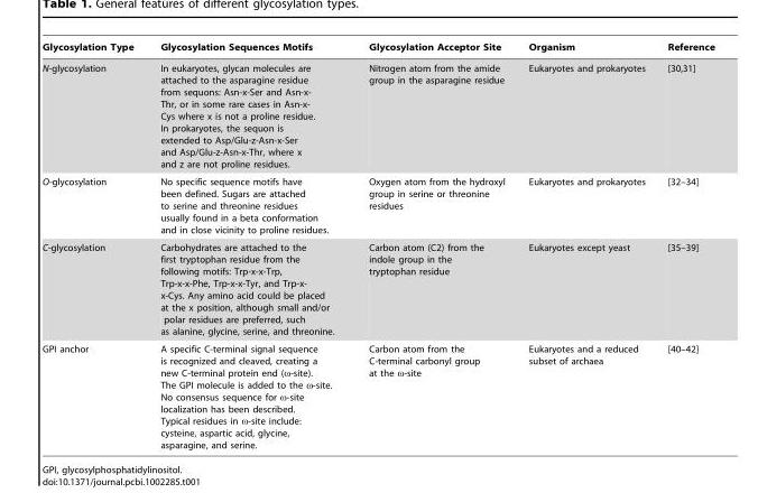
<table><thead><tr><td>Glycosylation Type</td><td>Glycosylation Sequences Motifs</td><td>Glycosylation Acceptor Site</td><td>Organism</td><td>Reference</td></tr></thead><tbody><tr><td>N-glycosylation</td><td>In eukaryotes, glycan molecules are attached to the asparagine residue from sequons: Asn-x-Ser and Asn-x- Thr, or in some rare cases in Asn-x- Cys where x is not a proline residue. In prokaryotes, the sequon is extended to Asp/Glu-z-Asn-x-Ser and Asp/Glu-z-Asn-x-Thr, where x and z are not proline residues.</td><td>Nitrogen atom from the amide group in the asparagine residue</td><td>Eukaryotes and prokaryotes</td><td>[30,31]</td></tr><tr><td>O-glycosylation</td><td>No specific sequence motifs have been defined. Sugars are attached to serine and threonine residues usually found in a beta conformation and in close vicinity to proline residues.</td><td>Oxygen atom from the hydroxyl group in serine or threonine residues</td><td>Eukaryotes and prokaryotes</td><td>[32–34]</td></tr><tr><td>C-glycosylation</td><td>Carbohydrates are attached to the first tryptophan residue from the following motifs: Trp-x-x-Trp, Trp-x-x-Phe, Trp-x-x-Tyr, and Trp-x- x-Cys. Any amino acid could be placed at the x position, although small and/or polar residues are preferred, such as alanine, glycine, serine, and threonine.</td><td>Carbon atom (C2) from the indole group in the tryptophan residue</td><td>Eukaryotes except yeast</td><td>[35–39]</td></tr><tr><td>GPI anchor</td><td>A specific C-terminal signal sequence is recognized and cleaved, creating a new C-terminal protein end (ω-site). The GPI molecule is added to the ω-site. No consensus sequence for ω-site localization has been described. Typical residues in ω-site include: cysteine, aspartic acid, glycine, asparagine, and serine.</td><td>Carbon atom from the C-terminal carbonyl group at the ω-site</td><td>Eukaryotes and a reduced subset of archaea</td><td>[40–42]</td></tr></tbody></table>